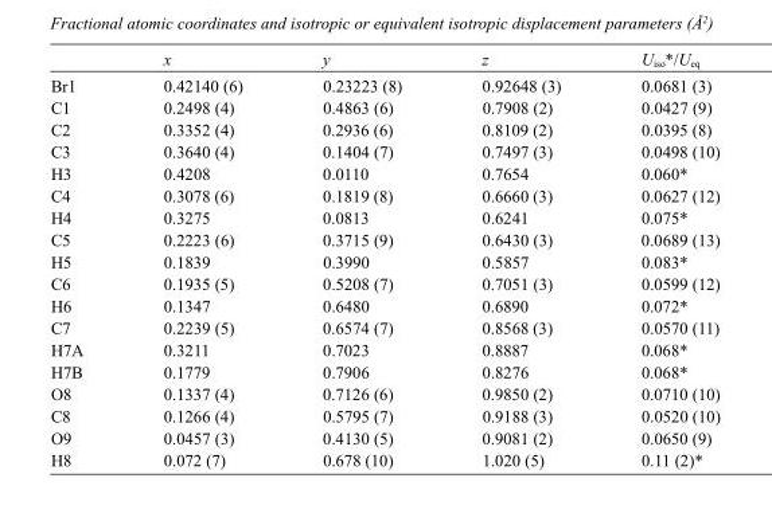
<table><thead><tr><td></td><td>x</td><td>y</td><td>z</td><td>U<sub>iso</sub>*/U<sub>eq</sub></td></tr></thead><tbody><tr><td>Br1</td><td>0.42140 (6)</td><td>0.23223 (8)</td><td>0.92648 (3)</td><td>0.0681 (3)</td></tr><tr><td>C1</td><td>0.2498 (4)</td><td>0.4863 (6)</td><td>0.7908 (2)</td><td>0.0427 (9)</td></tr><tr><td>C2</td><td>0.3352 (4)</td><td>0.2936 (6)</td><td>0.8109 (2)</td><td>0.0395 (8)</td></tr><tr><td>C3</td><td>0.3640 (4)</td><td>0.1404 (7)</td><td>0.7497 (3)</td><td>0.0498 (10)</td></tr><tr><td>H3</td><td>0.4208</td><td>0.0110</td><td>0.7654</td><td>0.060*</td></tr><tr><td>C4</td><td>0.3078 (6)</td><td>0.1819 (8)</td><td>0.6660 (3)</td><td>0.0627 (12)</td></tr><tr><td>H4</td><td>0.3275</td><td>0.0813</td><td>0.6241</td><td>0.075*</td></tr><tr><td>C5</td><td>0.2223 (6)</td><td>0.3715 (9)</td><td>0.6430 (3)</td><td>0.0689 (13)</td></tr><tr><td>H5</td><td>0.1839</td><td>0.3990</td><td>0.5857</td><td>0.083*</td></tr><tr><td>C6</td><td>0.1935 (5)</td><td>0.5208 (7)</td><td>0.7051 (3)</td><td>0.0599 (12)</td></tr><tr><td>H6</td><td>0.1347</td><td>0.6480</td><td>0.6890</td><td>0.072*</td></tr><tr><td>C7</td><td>0.2239 (5)</td><td>0.6574 (7)</td><td>0.8568 (3)</td><td>0.0570 (11)</td></tr><tr><td>H7A</td><td>0.3211</td><td>0.7023</td><td>0.8887</td><td>0.068*</td></tr><tr><td>H7B</td><td>0.1779</td><td>0.7906</td><td>0.8276</td><td>0.068*</td></tr><tr><td>O8</td><td>0.1337 (4)</td><td>0.7126 (6)</td><td>0.9850 (2)</td><td>0.0710 (10)</td></tr><tr><td>C8</td><td>0.1266 (4)</td><td>0.5795 (7)</td><td>0.9188 (3)</td><td>0.0520 (10)</td></tr><tr><td>O9</td><td>0.0457 (3)</td><td>0.4130 (5)</td><td>0.9081 (2)</td><td>0.0650 (9)</td></tr><tr><td>H8</td><td>0.072 (7)</td><td>0.678 (10)</td><td>1.020 (5)</td><td>0.11 (2)*</td></tr></tbody></table>